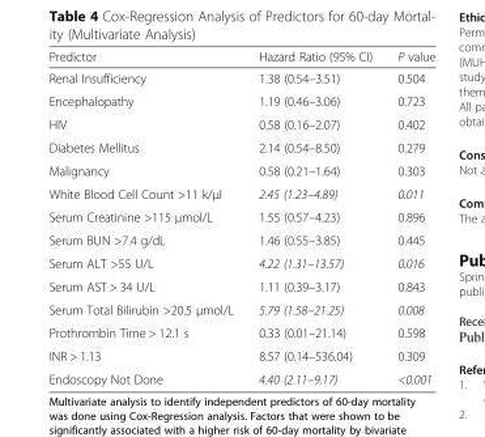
<table><thead><tr><td>Predictor</td><td>Hazard Ratio (95% CI)</td><td>P value</td></tr></thead><tbody><tr><td>Renal Insufficiency</td><td>1.38 (0.54–3.51)</td><td>0.504</td></tr><tr><td>Encephalopathy</td><td>1.19 (0.46–3.06)</td><td>0.723</td></tr><tr><td>HIV</td><td>0.58 (0.16–2.07)</td><td>0.402</td></tr><tr><td>Diabetes Mellitus</td><td>2.14 (0.54–8.50)</td><td>0.279</td></tr><tr><td>Malignancy</td><td>0.58 (0.21–1.64)</td><td>0.303</td></tr><tr><td>White Blood Cell Count &gt;11 k/μl</td><td>2.45 (1.23–4.89)</td><td>0.011</td></tr><tr><td>Serum Creatinine &gt;115 μmol/L</td><td>1.55 (0.57–4.23)</td><td>0.896</td></tr><tr><td>Serum BUN &gt;7.4 g/dL</td><td>1.46 (0.55–3.85)</td><td>0.445</td></tr><tr><td>Serum ALT &gt;55 U/L</td><td>4.22 (1.31–13.57)</td><td>0.016</td></tr><tr><td>Serum AST &gt; 34 U/L</td><td>1.11 (0.39–3.17)</td><td>0.843</td></tr><tr><td>Serum Total Bilirubin &gt;20.5 μmol/L</td><td>5.79 (1.58–21.25)</td><td>0.008</td></tr><tr><td>Prothrombin Time &gt; 12.1 s</td><td>0.33 (0.01–21.14)</td><td>0.598</td></tr><tr><td>INR &gt; 1.13</td><td>8.57 (0.14–536.04)</td><td>0.309</td></tr><tr><td>Endoscopy Not Done</td><td>4.40 (2.11–9.17)</td><td>&lt;0.001</td></tr></tbody></table>